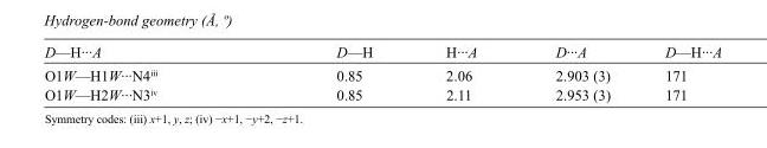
<table><tbody><tr><td>D—H···A</td><td>D—H</td><td>H···A</td><td>D···A</td><td>D—H···A</td></tr><tr><td>O1W—H1W···N4<sup>iii</sup></td><td>0.85</td><td>2.06</td><td>2.903 (3)</td><td>171</td></tr><tr><td>O1W—H2W···N3<sup>iv</sup></td><td>0.85</td><td>2.11</td><td>2.953 (3)</td><td>171</td></tr></tbody></table>